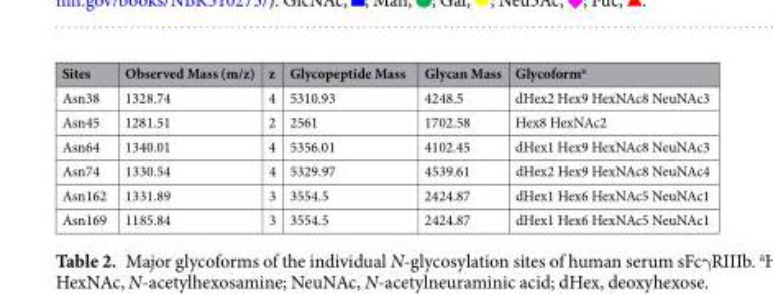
<table><thead><tr><td>Sites</td><td>Observed Mass (m/z)</td><td>z</td><td>Glycopeptide Mass</td><td>Glycan Mass</td><td>Glycoform<sup>a</sup></td></tr></thead><tbody><tr><td>Asn38</td><td>1328.74</td><td>4</td><td>5310.93</td><td>4248.5</td><td>dHex2 Hex9 HexNAc8 NeuNAc3</td></tr><tr><td>Asn45</td><td>1281.51</td><td>2</td><td>2561</td><td>1702.58</td><td>Hex8 HexNAc2</td></tr><tr><td>Asn64</td><td>1340.01</td><td>4</td><td>5356.01</td><td>4102.45</td><td>dHex1 Hex9 HexNAc8 NeuNAc3</td></tr><tr><td>Asn74</td><td>1330.54</td><td>4</td><td>5329.97</td><td>4539.61</td><td>dHex2 Hex9 HexNAc8 NeuNAc4</td></tr><tr><td>Asn162</td><td>1331.89</td><td>3</td><td>3554.5</td><td>2424.87</td><td>dHex1 Hex6 HexNAc5 NeuNAc1</td></tr><tr><td>Asn169</td><td>1185.84</td><td>3</td><td>3554.5</td><td>2424.87</td><td>dHex1 Hex6 HexNAc5 NeuNAc1</td></tr></tbody></table>